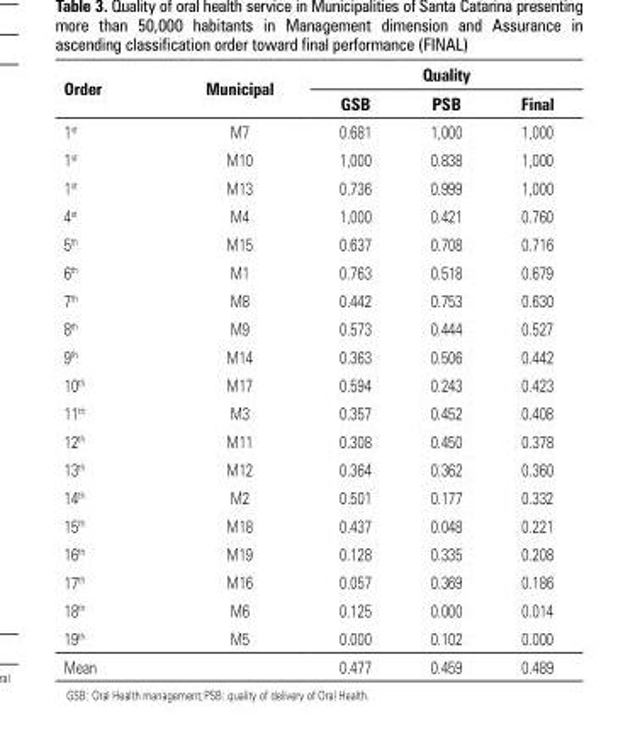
<table><thead><tr><td rowspan="2">order</td><td rowspan="2">municipal</td><td colspan="3">Quality</td></tr><tr><td>gsB</td><td>PsB</td><td>Final</td></tr></thead><tbody><tr><td>1<sup>st</sup></td><td>M7</td><td>0.681</td><td>1,000</td><td>1,000</td></tr><tr><td>1<sup>st</sup></td><td>M10</td><td>1,000</td><td>0.838</td><td>1,000</td></tr><tr><td>1<sup>st</sup></td><td>M13</td><td>0.736</td><td>0.999</td><td>1,000</td></tr><tr><td>4<sup>st</sup></td><td>M4</td><td>1,000</td><td>0.421</td><td>0.760</td></tr><tr><td>5<sup>th</sup></td><td>M15</td><td>0.637</td><td>0.708</td><td>0.716</td></tr><tr><td>6<sup>th</sup></td><td>M1</td><td>0.763</td><td>0.518</td><td>0.679</td></tr><tr><td>7<sup>th</sup></td><td>M8</td><td>0.442</td><td>0.753</td><td>0.630</td></tr><tr><td>8<sup>th</sup></td><td>M9</td><td>0.573</td><td>0.444</td><td>0.527</td></tr><tr><td>9<sup>th</sup></td><td>M14</td><td>0.363</td><td>0.506</td><td>0.442</td></tr><tr><td>10<sup>th</sup></td><td>M17</td><td>0.594</td><td>0.243</td><td>0.423</td></tr><tr><td>11<sup>th</sup></td><td>M3</td><td>0.357</td><td>0.452</td><td>0.408</td></tr><tr><td>12<sup>th</sup></td><td>M11</td><td>0.308</td><td>0.450</td><td>0.378</td></tr><tr><td>13<sup>th</sup></td><td>M12</td><td>0.364</td><td>0.362</td><td>0.360</td></tr><tr><td>14<sup>th</sup></td><td>M2</td><td>0.501</td><td>0.177</td><td>0.332</td></tr><tr><td>15<sup>th</sup></td><td>M18</td><td>0.437</td><td>0.048</td><td>0.221</td></tr><tr><td>16<sup>th</sup></td><td>M19</td><td>0.128</td><td>0.335</td><td>0.208</td></tr><tr><td>17<sup>th</sup></td><td>M16</td><td>0.057</td><td>0.369</td><td>0.186</td></tr><tr><td>18<sup>th</sup></td><td>M6</td><td>0.125</td><td>0.000</td><td>0.014</td></tr><tr><td>19<sup>th</sup></td><td>M5</td><td>0.000</td><td>0.102</td><td>0.000</td></tr><tr><td>Mean</td><td></td><td>0.477</td><td>0.459</td><td>0.489</td></tr></tbody></table>